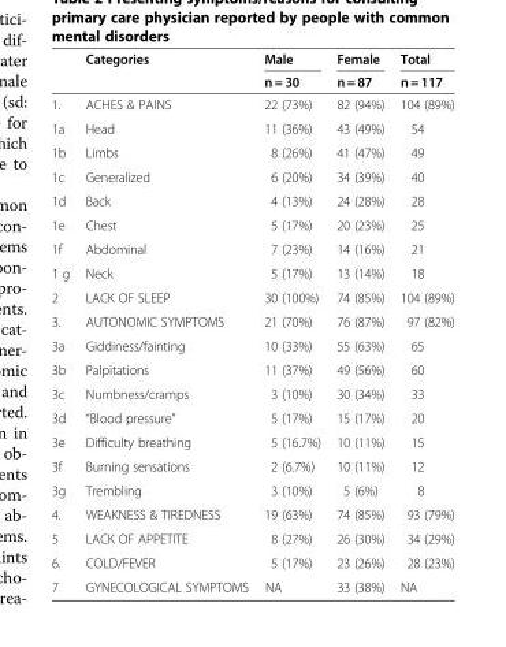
<table><thead><tr><td rowspan="2"></td><td rowspan="2">Categories</td><td rowspan="2">Male n = 30</td><td rowspan="2">Female n = 87</td><td rowspan="2">Total n = 117</td></tr><tr></tr></thead><tbody><tr><td>1.</td><td>ACHES &amp; PAINS</td><td>22 (73%)</td><td>82 (94%)</td><td>104 (89%)</td></tr><tr><td>1a</td><td>Head</td><td>11 (36%)</td><td>43 (49%)</td><td>54</td></tr><tr><td>1b</td><td>Limbs</td><td>8 (26%)</td><td>41 (47%)</td><td>49</td></tr><tr><td>1c</td><td>Generalized</td><td>6 (20%)</td><td>34 (39%)</td><td>40</td></tr><tr><td>1d</td><td>Back</td><td>4 (13%)</td><td>24 (28%)</td><td>28</td></tr><tr><td>1e</td><td>Chest</td><td>5 (17%)</td><td>20 (23%)</td><td>25</td></tr><tr><td>1f</td><td>Abdominal</td><td>7 (23%)</td><td>14 (16%)</td><td>21</td></tr><tr><td>1 g</td><td>Neck</td><td>5 (17%)</td><td>13 (14%)</td><td>18</td></tr><tr><td>2</td><td>LACK OF SLEEP</td><td>30 (100%)</td><td>74 (85%)</td><td>104 (89%)</td></tr><tr><td>3.</td><td>AUTONOMIC SYMPTOMS</td><td>21 (70%)</td><td>76 (87%)</td><td>97 (82%)</td></tr><tr><td>3a</td><td>Giddiness/fainting</td><td>10 (33%)</td><td>55 (63%)</td><td>65</td></tr><tr><td>3b</td><td>Palpitations</td><td>11 (37%)</td><td>49 (56%)</td><td>60</td></tr><tr><td>3c</td><td>Numbness/cramps</td><td>3 (10%)</td><td>30 (34%)</td><td>33</td></tr><tr><td>3d</td><td>“Blood pressure”</td><td>5 (17%)</td><td>15 (17%)</td><td>20</td></tr><tr><td>3e</td><td>Difficulty breathing</td><td>5 (16.7%)</td><td>10 (11%)</td><td>15</td></tr><tr><td>3f</td><td>Burning sensations</td><td>2 (6.7%)</td><td>10 (11%)</td><td>12</td></tr><tr><td>3g</td><td>Trembling</td><td>3 (10%)</td><td>5 (6%)</td><td>8</td></tr><tr><td>4.</td><td>WEAKNESS &amp; TIREDNESS</td><td>19 (63%)</td><td>74 (85%)</td><td>93 (79%)</td></tr><tr><td>5</td><td>LACK OF APPETITE</td><td>8 (27%)</td><td>26 (30%)</td><td>34 (29%)</td></tr><tr><td>6.</td><td>COLD/FEVER</td><td>5 (17%)</td><td>23 (26%)</td><td>28 (23%)</td></tr><tr><td>7</td><td>GYNECOLOGICAL SYMPTOMS</td><td>NA</td><td>33 (38%)</td><td>NA</td></tr></tbody></table>